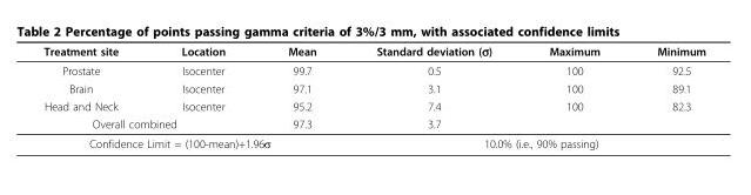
<table><thead><tr><td>Treatment site</td><td>Location</td><td>Mean</td><td>Standard deviation (σ)</td><td>Maximum</td><td>Minimum</td></tr></thead><tbody><tr><td>Prostate</td><td>Isocenter</td><td>99.7</td><td>0.5</td><td>100</td><td>92.5</td></tr><tr><td>Brain</td><td>Isocenter</td><td>97.1</td><td>3.1</td><td>100</td><td>89.1</td></tr><tr><td>Head and Neck</td><td>Isocenter</td><td>95.2</td><td>7.4</td><td>100</td><td>82.3</td></tr><tr><td colspan="2">Overall combined</td><td>97.3</td><td>3.7</td><td></td><td></td></tr><tr><td colspan="3">Confidence Limit = (100-mean)+1.96σ</td><td colspan="3">10.0% (i.e., 90% passing)</td></tr></tbody></table>